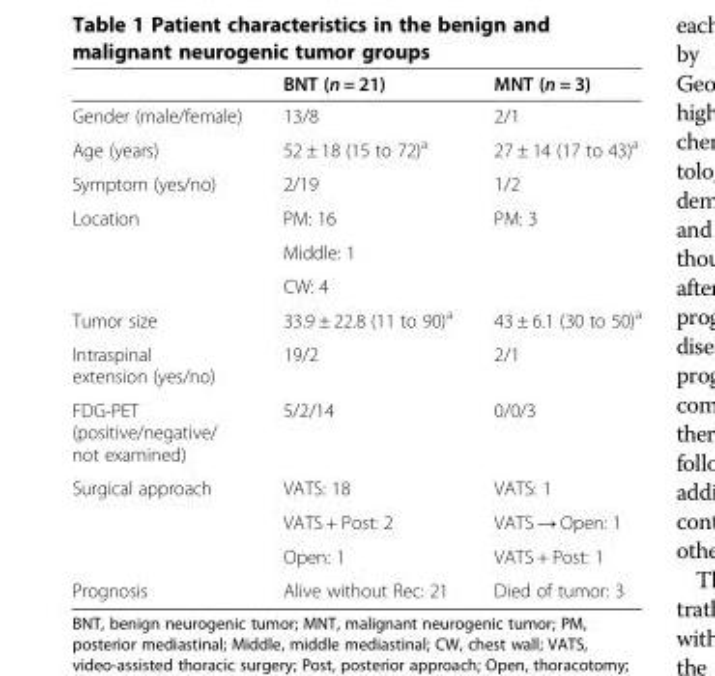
<table><thead><tr><td></td><td>BNT (n = 21)</td><td>MNT (n = 3)</td></tr></thead><tbody><tr><td>Gender (male/female)</td><td>13/8</td><td>2/1</td></tr><tr><td>Age (years)</td><td>52 ± 18 (15 to 72)<sup>a</sup></td><td>27 ± 14 (17 to 43)<sup>a</sup></td></tr><tr><td>Symptom (yes/no)</td><td>2/19</td><td>1/2</td></tr><tr><td rowspan="3">Location</td><td>PM: 16</td><td>PM: 3</td></tr><tr><td>Middle: 1</td><td></td></tr><tr><td>CW: 4</td><td></td></tr><tr><td>Tumor size</td><td>33.9 ± 22.8 (11 to 90)<sup>a</sup></td><td>43 ± 6.1 (30 to 50)<sup>a</sup></td></tr><tr><td>Intraspinal extension (yes/no)</td><td>19/2</td><td>2/1</td></tr><tr><td>FDG-PET (positive/negative/ not examined)</td><td>5/2/14</td><td>0/0/3</td></tr><tr><td rowspan="3">Surgical approach</td><td>VATS: 18</td><td>VATS: 1</td></tr><tr><td>VATS + Post: 2</td><td>VATS → Open: 1</td></tr><tr><td>Open: 1</td><td>VATS + Post: 1</td></tr><tr><td>Prognosis</td><td>Alive without Rec: 21</td><td>Died of tumor: 3</td></tr></tbody></table>